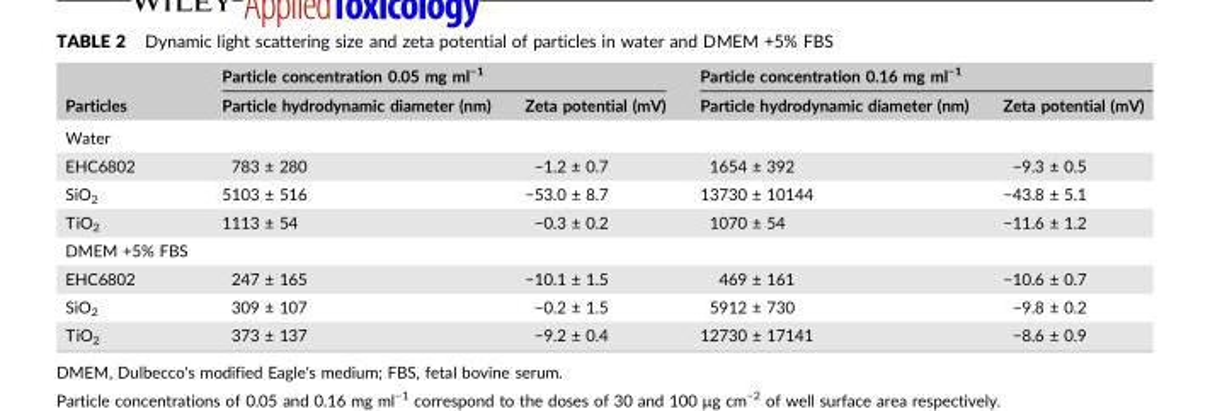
<table><thead><tr><td rowspan="2">Particles</td><td colspan="2">Particle concentration 0.05 mg ml<sup>−1</sup></td><td colspan="2">Particle concentration 0.16 mg ml<sup>−1</sup></td></tr><tr><td>Particle hydrodynamic diameter (nm)</td><td>Zeta potential (mV)</td><td>Particle hydrodynamic diameter (nm)</td><td>Zeta potential (mV)</td></tr></thead><tbody><tr><td colspan="5">Water</td></tr><tr><td>EHC6802</td><td>783 ± 280</td><td>−1.2 ± 0.7</td><td>1654 ± 392</td><td>−9.3 ± 0.5</td></tr><tr><td>SiO<sub>2</sub></td><td>5103 ± 516</td><td>−53.0 ± 8.7</td><td>13730 ± 10144</td><td>−43.8 ± 5.1</td></tr><tr><td>TiO<sub>2</sub></td><td>1113 ± 54</td><td>−0.3 ± 0.2</td><td>1070 ± 54</td><td>−11.6 ± 1.2</td></tr><tr><td colspan="5">DMEM +5% FBS</td></tr><tr><td>EHC6802</td><td>247 ± 165</td><td>−10.1 ± 1.5</td><td>469 ± 161</td><td>−10.6 ± 0.7</td></tr><tr><td>SiO<sub>2</sub></td><td>309 ± 107</td><td>−0.2 ± 1.5</td><td>5912 ± 730</td><td>−9.8 ± 0.2</td></tr><tr><td>TiO<sub>2</sub></td><td>373 ± 137</td><td>−9.2 ± 0.4</td><td>12730 ± 17141</td><td>−8.6 ± 0.9</td></tr></tbody></table>